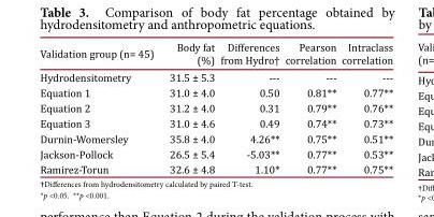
<table><thead><tr><td>Validation group (n= 45)</td><td>Body fat (%)</td><td>Differences from Hydro†</td><td>Pearson correlation</td><td>Intraclass correlation</td></tr></thead><tbody><tr><td>Hydrodensitometry</td><td>31.5 ± 5.3</td><td>---</td><td>---</td><td>---</td></tr><tr><td>Equation 1</td><td>31.0 ± 4.0</td><td>0.50</td><td>0.81**</td><td>0.77**</td></tr><tr><td>Equation 2</td><td>31.2 ± 4.0</td><td>0.31</td><td>0.79**</td><td>0.76**</td></tr><tr><td>Equation 3</td><td>31.0 ± 4.6</td><td>0.49</td><td>0.74**</td><td>0.73**</td></tr><tr><td>Durnin-Womersley</td><td>35.8 ± 4.0</td><td>4.26**</td><td>0.75**</td><td>0.51**</td></tr><tr><td>Jackson-Pollock</td><td>26.5 ± 5.4</td><td>-5.03**</td><td>0.77**</td><td>0.53**</td></tr><tr><td>Ramirez-Torun</td><td>32.6 ± 4.8</td><td>1.10*</td><td>0.77**</td><td>0.75**</td></tr></tbody></table>